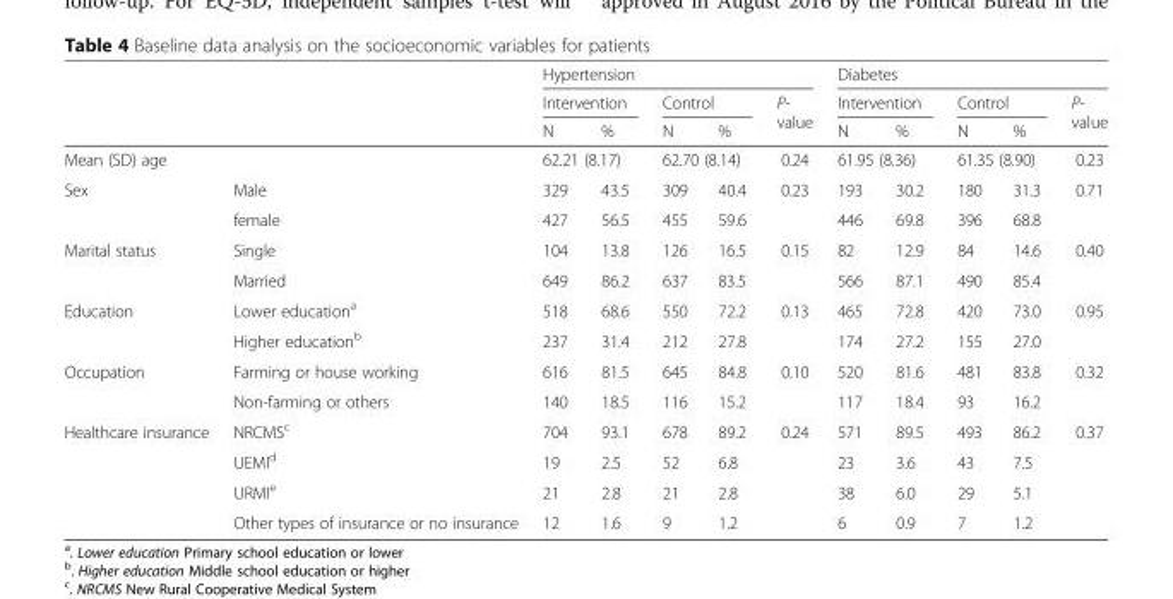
<table><thead><tr><td rowspan="3"></td><td rowspan="3"></td><td colspan="5">Hypertension</td><td colspan="5">Diabetes</td></tr><tr><td colspan="2">Intervention</td><td colspan="2">Control</td><td rowspan="2">P- value</td><td colspan="2">Intervention</td><td colspan="2">Control</td><td rowspan="2">P- value</td></tr><tr><td>N</td><td>%</td><td>N</td><td>%</td><td>N</td><td>%</td><td>N</td><td>%</td></tr></thead><tbody><tr><td colspan="2">Mean (SD) age</td><td colspan="2">62.21 (8.17)</td><td colspan="2">62.70 (8.14)</td><td>0.24</td><td colspan="2">61.95 (8.36)</td><td colspan="2">61.35 (8.90)</td><td>0.23</td></tr><tr><td rowspan="2">Sex</td><td>Male</td><td>329</td><td>43.5</td><td>309</td><td>40.4</td><td rowspan="2">0.23</td><td>193</td><td>30.2</td><td>180</td><td>31.3</td><td rowspan="2">0.71</td></tr><tr><td>female</td><td>427</td><td>56.5</td><td>455</td><td>59.6</td><td>446</td><td>69.8</td><td>396</td><td>68.8</td></tr><tr><td rowspan="2">Marital status</td><td>Single</td><td>104</td><td>13.8</td><td>126</td><td>16.5</td><td rowspan="2">0.15</td><td>82</td><td>12.9</td><td>84</td><td>14.6</td><td rowspan="2">0.40</td></tr><tr><td>Married</td><td>649</td><td>86.2</td><td>637</td><td>83.5</td><td>566</td><td>87.1</td><td>490</td><td>85.4</td></tr><tr><td rowspan="2">Education</td><td>Lower education<sup>a</sup></td><td>518</td><td>68.6</td><td>550</td><td>72.2</td><td rowspan="2">0.13</td><td>465</td><td>72.8</td><td>420</td><td>73.0</td><td rowspan="2">0.95</td></tr><tr><td>Higher education<sup>b</sup></td><td>237</td><td>31.4</td><td>212</td><td>27.8</td><td>174</td><td>27.2</td><td>155</td><td>27.0</td></tr><tr><td rowspan="2">Occupation</td><td>Farming or house working</td><td>616</td><td>81.5</td><td>645</td><td>84.8</td><td rowspan="2">0.10</td><td>520</td><td>81.6</td><td>481</td><td>83.8</td><td rowspan="2">0.32</td></tr><tr><td>Non-farming or others</td><td>140</td><td>18.5</td><td>116</td><td>15.2</td><td>117</td><td>18.4</td><td>93</td><td>16.2</td></tr><tr><td rowspan="4">Healthcare insurance</td><td>NRCMS<sup>c</sup></td><td>704</td><td>93.1</td><td>678</td><td>89.2</td><td rowspan="4">0.24</td><td>571</td><td>89.5</td><td>493</td><td>86.2</td><td rowspan="4">0.37</td></tr><tr><td>UEMI<sup>d</sup></td><td>19</td><td>2.5</td><td>52</td><td>6.8</td><td>23</td><td>3.6</td><td>43</td><td>7.5</td></tr><tr><td>URMI<sup>e</sup></td><td>21</td><td>2.8</td><td>21</td><td>2.8</td><td>38</td><td>6.0</td><td>29</td><td>5.1</td></tr><tr><td>Other types of insurance or no insurance</td><td>12</td><td>1.6</td><td>9</td><td>1.2</td><td>6</td><td>0.9</td><td>7</td><td>1.2</td></tr></tbody></table>